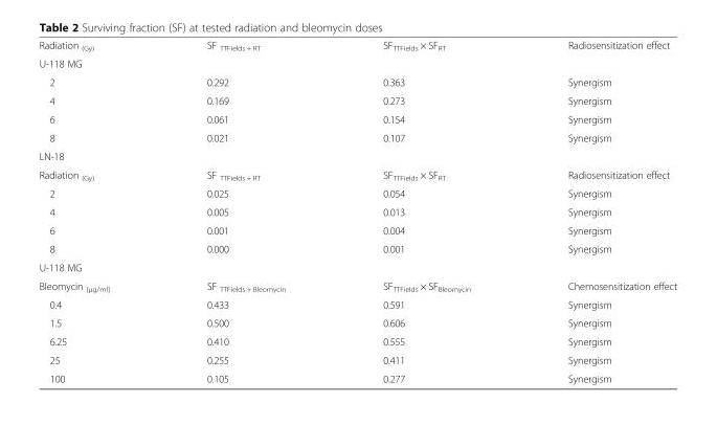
<table><tbody><tr><td>Radiation <sub>(Gy)</sub></td><td>SF <sub>TTFields + RT</sub></td><td>SF<sub>TTFields</sub> × SF<sub>RT</sub></td><td>Radiosensitization effect</td></tr><tr><td colspan="4">U-118 MG</td></tr><tr><td>2</td><td>0.292</td><td>0.363</td><td>Synergism</td></tr><tr><td>4</td><td>0.169</td><td>0.273</td><td>Synergism</td></tr><tr><td>6</td><td>0.061</td><td>0.154</td><td>Synergism</td></tr><tr><td>8</td><td>0.021</td><td>0.107</td><td>Synergism</td></tr><tr><td colspan="4">LN-18</td></tr><tr><td>Radiation <sub>(Gy)</sub></td><td>SF <sub>TTFields + RT</sub></td><td>SF<sub>TTFields</sub> × SF<sub>RT</sub></td><td>Radiosensitization effect</td></tr><tr><td>2</td><td>0.025</td><td>0.054</td><td>Synergism</td></tr><tr><td>4</td><td>0.005</td><td>0.013</td><td>Synergism</td></tr><tr><td>6</td><td>0.001</td><td>0.004</td><td>Synergism</td></tr><tr><td>8</td><td>0.000</td><td>0.001</td><td>Synergism</td></tr><tr><td colspan="4">U-118 MG</td></tr><tr><td>Bleomycin <sub>[μg/ml]</sub></td><td>SF <sub>TTFields + Bleomycin</sub></td><td>SF<sub>TTFields</sub> × SF<sub>Bleomycin</sub></td><td>Chemosensitization effect</td></tr><tr><td>0.4</td><td>0.433</td><td>0.591</td><td>Synergism</td></tr><tr><td>1.5</td><td>0.500</td><td>0.606</td><td>Synergism</td></tr><tr><td>6.25</td><td>0.410</td><td>0.555</td><td>Synergism</td></tr><tr><td>25</td><td>0.255</td><td>0.411</td><td>Synergism</td></tr><tr><td>100</td><td>0.105</td><td>0.277</td><td>Synergism</td></tr></tbody></table>